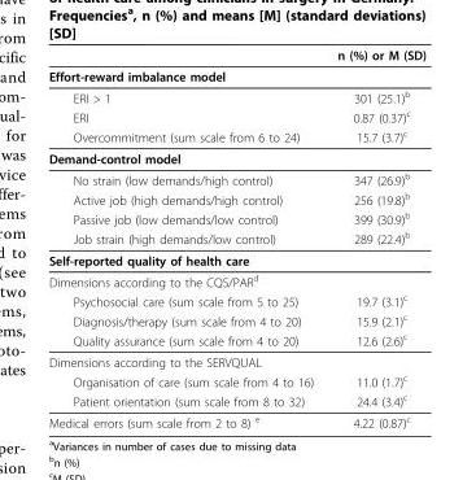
<table><thead><tr><td></td><td>n (%) or M (SD)</td></tr></thead><tbody><tr><td colspan="2">Effort-reward imbalance model</td></tr><tr><td>ERI &gt; 1</td><td>301 (25.1)<sup>b</sup></td></tr><tr><td>ERI</td><td>0.87 (0.37)<sup>c</sup></td></tr><tr><td>Overcommitment (sum scale from 6 to 24)</td><td>15.7 (3.7)<sup>c</sup></td></tr><tr><td colspan="2">Demand-control model</td></tr><tr><td>No strain (low demands/high control)</td><td>347 (26.9)<sup>b</sup></td></tr><tr><td>Active job (high demands/high control)</td><td>256 (19.8)<sup>b</sup></td></tr><tr><td>Passive job (low demands/low control)</td><td>399 (30.9)<sup>b</sup></td></tr><tr><td>Job strain (high demands/low control)</td><td>289 (22.4)<sup>b</sup></td></tr><tr><td colspan="2">Self-reported quality of health care</td></tr><tr><td colspan="2">Dimensions according to the CQS/PAR<sup>d</sup></td></tr><tr><td>Psychosocial care (sum scale from 5 to 25)</td><td>19.7 (3.1)<sup>c</sup></td></tr><tr><td>Diagnosis/therapy (sum scale from 4 to 20)</td><td>15.9 (2.1)<sup>c</sup></td></tr><tr><td>Quality assurance (sum scale from 4 to 20)</td><td>12.6 (2.6)<sup>c</sup></td></tr><tr><td colspan="2">Dimensions according to the SERVQUAL</td></tr><tr><td>Organisation of care (sum scale from 4 to 16)</td><td>11.0 (1.7)<sup>c</sup></td></tr><tr><td>Patient orientation (sum scale from 8 to 32)</td><td>24.4 (3.4)<sup>c</sup></td></tr><tr><td>Medical errors (sum scale from 2 to 8) <sup>e</sup></td><td>4.22 (0.87)<sup>c</sup></td></tr></tbody></table>